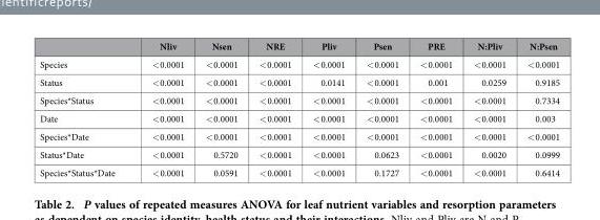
<table><thead><tr><td></td><td>Nliv</td><td>Nsen</td><td>NRE</td><td>Pliv</td><td>Psen</td><td>PRE</td><td>N:Pliv</td><td>N:Psen</td></tr></thead><tbody><tr><td>Species</td><td>&lt; 0.0001</td><td>&lt; 0.0001</td><td>&lt; 0.0001</td><td>&lt; 0.0001</td><td>&lt; 0.0001</td><td>&lt; 0.0001</td><td>&lt; 0.0001</td><td>&lt; 0.0001</td></tr><tr><td>Status</td><td>&lt; 0.0001</td><td>&lt; 0.0001</td><td>&lt; 0.0001</td><td>0.0141</td><td>&lt; 0.0001</td><td>0.001</td><td>0.0259</td><td>0.9185</td></tr><tr><td>Species*Status</td><td>&lt; 0.0001</td><td>&lt; 0.0001</td><td>&lt; 0.0001</td><td>&lt; 0.0001</td><td>&lt; 0.0001</td><td>&lt; 0.0001</td><td>&lt; 0.0001</td><td>0.7334</td></tr><tr><td>Date</td><td>&lt; 0.0001</td><td>&lt; 0.0001</td><td>&lt; 0.0001</td><td>&lt; 0.0001</td><td>&lt; 0.0001</td><td>&lt; 0.0001</td><td>&lt; 0.0001</td><td>0.003</td></tr><tr><td>Species*Date</td><td>&lt; 0.0001</td><td>&lt; 0.0001</td><td>&lt; 0.0001</td><td>&lt; 0.0001</td><td>&lt; 0.0001</td><td>&lt; 0.0001</td><td>&lt; 0.0001</td><td>&lt; 0.0001</td></tr><tr><td>Status*Date</td><td>&lt; 0.0001</td><td>0.5720</td><td>&lt; 0.0001</td><td>&lt; 0.0001</td><td>0.0623</td><td>&lt; 0.0001</td><td>0.0020</td><td>0.0999</td></tr><tr><td>Species*Status*Date</td><td>&lt; 0.0001</td><td>0.0591</td><td>&lt; 0.0001</td><td>&lt; 0.0001</td><td>0.1727</td><td>&lt; 0.0001</td><td>&lt; 0.0001</td><td>0.6414</td></tr></tbody></table>